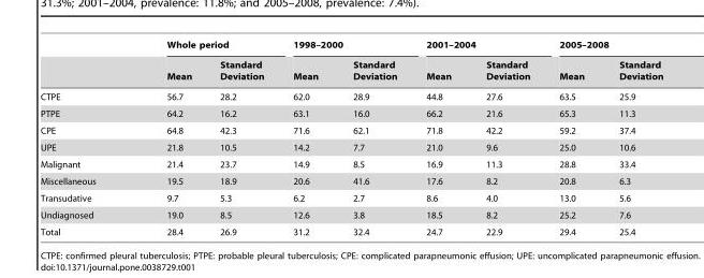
<table><thead><tr><td rowspan="2"></td><td colspan="2">Whole period</td><td colspan="2">1998–2000</td><td colspan="2">2001–2004</td><td colspan="2">2005–2008</td></tr><tr><td>Mean</td><td>Standard Deviation</td><td>Mean</td><td>Standard Deviation</td><td>Mean</td><td>Standard Deviation</td><td>Mean</td><td>Standard Deviation</td></tr></thead><tbody><tr><td>CTPE</td><td>56.7</td><td>28.2</td><td>62.0</td><td>28.9</td><td>44.8</td><td>27.6</td><td>63.5</td><td>25.9</td></tr><tr><td>PTPE</td><td>64.2</td><td>16.2</td><td>63.1</td><td>16.0</td><td>66.2</td><td>21.6</td><td>65.3</td><td>11.3</td></tr><tr><td>CPE</td><td>64.8</td><td>42.3</td><td>71.6</td><td>62.1</td><td>71.8</td><td>42.2</td><td>59.2</td><td>37.4</td></tr><tr><td>UPE</td><td>21.8</td><td>10.5</td><td>14.2</td><td>7.7</td><td>21.0</td><td>9.6</td><td>25.0</td><td>10.6</td></tr><tr><td>Malignant</td><td>21.4</td><td>23.7</td><td>14.9</td><td>8.5</td><td>16.9</td><td>11.3</td><td>28.8</td><td>33.4</td></tr><tr><td>Miscellaneous</td><td>19.5</td><td>18.9</td><td>20.6</td><td>41.6</td><td>17.6</td><td>8.2</td><td>20.8</td><td>6.3</td></tr><tr><td>Transudative</td><td>9.7</td><td>5.3</td><td>6.2</td><td>2.7</td><td>8.6</td><td>4.0</td><td>13.0</td><td>5.6</td></tr><tr><td>Undiagnosed</td><td>19.0</td><td>8.5</td><td>12.6</td><td>3.8</td><td>18.5</td><td>8.2</td><td>25.2</td><td>7.6</td></tr><tr><td>Total</td><td>28.4</td><td>26.9</td><td>31.2</td><td>32.4</td><td>24.7</td><td>22.9</td><td>29.4</td><td>25.4</td></tr></tbody></table>